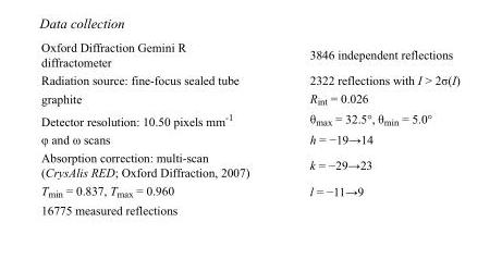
<table><tbody><tr><td>Oxford Diffraction Gemini R diffractometer</td><td>3846 independent reflections</td></tr><tr><td>Radiation source: fine-focus sealed tube</td><td>2322 reflections with I &gt; 2σ(I)</td></tr><tr><td>graphite</td><td>R<sub>int</sub> = 0.026</td></tr><tr><td>Detector resolution: 10.50 pixels mm<sup>-1</sup></td><td>θ<sub>max</sub> = 32.5°, θ<sub>min</sub> = 5.0°</td></tr><tr><td>φ and ω scans</td><td>h = −19→14</td></tr><tr><td>Absorption correction: multi-scan (CrysAlis RED; Oxford Diffraction, 2007)</td><td>k = −29→23</td></tr><tr><td>T<sub>min</sub> = 0.837, T<sub>max</sub> = 0.960</td><td>l = −11→9</td></tr><tr><td>16775 measured reflections</td><td></td></tr></tbody></table>